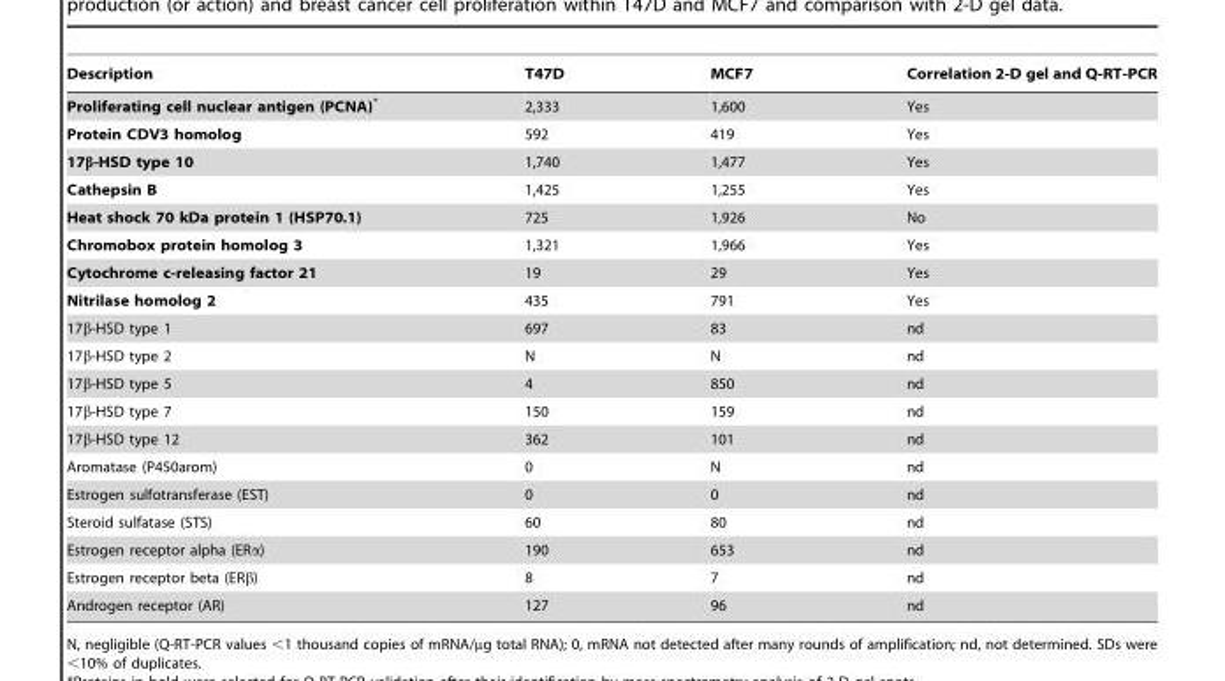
<table><thead><tr><td>Description</td><td>T47D</td><td>MCF7</td><td>Correlation 2-D gel and Q-RT-PCR</td></tr></thead><tbody><tr><td>Proliferating cell nuclear antigen (PCNA)*</td><td>2,333</td><td>1,600</td><td>Yes</td></tr><tr><td>Protein CDV3 homolog</td><td>592</td><td>419</td><td>Yes</td></tr><tr><td>17β-HSD type 10</td><td>1,740</td><td>1,477</td><td>Yes</td></tr><tr><td>Cathepsin B</td><td>1,425</td><td>1,255</td><td>Yes</td></tr><tr><td>Heat shock 70 kDa protein 1 (HSP70.1)</td><td>725</td><td>1,926</td><td>No</td></tr><tr><td>Chromobox protein homolog 3</td><td>1,321</td><td>1,966</td><td>Yes</td></tr><tr><td>Cytochrome c-releasing factor 21</td><td>19</td><td>29</td><td>Yes</td></tr><tr><td>Nitrilase homolog 2</td><td>435</td><td>791</td><td>Yes</td></tr><tr><td>17β-HSD type 1</td><td>697</td><td>83</td><td>nd</td></tr><tr><td>17β-HSD type 2</td><td>N</td><td>N</td><td>nd</td></tr><tr><td>17β-HSD type 5</td><td>4</td><td>850</td><td>nd</td></tr><tr><td>17β-HSD type 7</td><td>150</td><td>159</td><td>nd</td></tr><tr><td>17β-HSD type 12</td><td>362</td><td>101</td><td>nd</td></tr><tr><td>Aromatase (P450arom)</td><td>0</td><td>N</td><td>nd</td></tr><tr><td>Estrogen sulfotransferase (EST)</td><td>0</td><td>0</td><td>nd</td></tr><tr><td>Steroid sulfatase (STS)</td><td>60</td><td>80</td><td>nd</td></tr><tr><td>Estrogen receptor alpha (ERα)</td><td>190</td><td>653</td><td>nd</td></tr><tr><td>Estrogen receptor beta (ERβ)</td><td>8</td><td>7</td><td>nd</td></tr><tr><td>Androgen receptor (AR)</td><td>127</td><td>96</td><td>nd</td></tr></tbody></table>